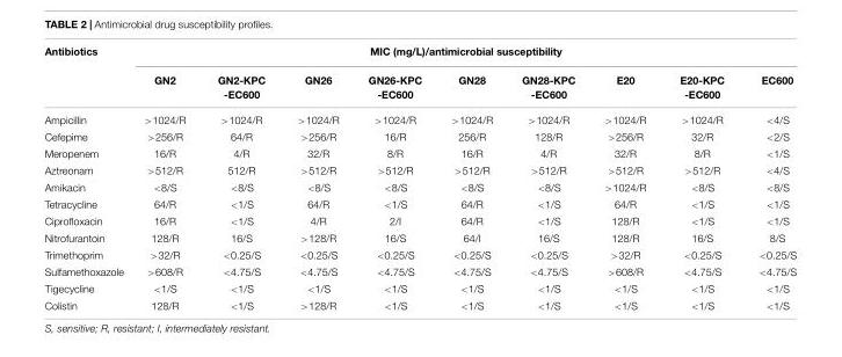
<table><thead><tr><td rowspan="2">Antibiotics</td><td colspan="9">MIC (mg/L)/antimicrobial susceptibility</td></tr><tr><td>GN2</td><td>GN2-KPC -EC600</td><td>GN26</td><td>GN26-KPC -EC600</td><td>GN28</td><td>GN28-KPC -EC600</td><td>E20</td><td>E20-KPC -EC600</td><td>EC600</td></tr></thead><tbody><tr><td>Ampicillin</td><td>&gt;1024/R</td><td>&gt;1024/R</td><td>&gt;1024/R</td><td>&gt;1024/R</td><td>&gt;1024/R</td><td>&gt;1024/R</td><td>&gt;1024/R</td><td>&gt;1024/R</td><td>&lt;4/S</td></tr><tr><td>Cefepime</td><td>&gt;256/R</td><td>64/R</td><td>&gt;256/R</td><td>16/R</td><td>256/R</td><td>128/R</td><td>&gt;256/R</td><td>32/R</td><td>&lt;2/S</td></tr><tr><td>Meropenem</td><td>16/R</td><td>4/R</td><td>32/R</td><td>8/R</td><td>16/R</td><td>4/R</td><td>32/R</td><td>8/R</td><td>&lt;1/S</td></tr><tr><td>Aztreonam</td><td>&gt;512/R</td><td>512/R</td><td>&gt;512/R</td><td>&gt;512/R</td><td>&gt;512/R</td><td>&gt;512/R</td><td>&gt;512/R</td><td>&gt;512/R</td><td>&lt;4/S</td></tr><tr><td>Amikacin</td><td>&lt;8/S</td><td>&lt;8/S</td><td>&lt;8/S</td><td>&lt;8/S</td><td>&lt;8/S</td><td>&lt;8/S</td><td>&gt;1024/R</td><td>&lt;8/S</td><td>&lt;8/S</td></tr><tr><td>Tetracycline</td><td>64/R</td><td>&lt;1/S</td><td>64/R</td><td>&lt;1/S</td><td>64/R</td><td>&lt;1/S</td><td>64/R</td><td>&lt;1/S</td><td>&lt;1/S</td></tr><tr><td>Ciprofloxacin</td><td>16/R</td><td>&lt;1/S</td><td>4/R</td><td>2/I</td><td>64/R</td><td>&lt;1/S</td><td>128/R</td><td>&lt;1/S</td><td>&lt;1/S</td></tr><tr><td>Nitrofurantoin</td><td>128/R</td><td>16/S</td><td>&gt;128/R</td><td>16/S</td><td>64/I</td><td>16/S</td><td>128/R</td><td>16/S</td><td>8/S</td></tr><tr><td>Trimethoprim</td><td>&gt;32/R</td><td>&lt;0.25/S</td><td>&lt;0.25/S</td><td>&lt;0.25/S</td><td>&lt;0.25/S</td><td>&lt;0.25/S</td><td>&gt;32/R</td><td>&lt;0.25/S</td><td>&lt;0.25/S</td></tr><tr><td>Sulfamethoxazole</td><td>&gt;608/R</td><td>&lt;4.75/S</td><td>&lt;4.75/S</td><td>&lt;4.75/S</td><td>&lt;4.75/S</td><td>&lt;4.75/S</td><td>&gt;608/R</td><td>&lt;4.75/S</td><td>&lt;4.75/S</td></tr><tr><td>Tigecycline</td><td>&lt;1/S</td><td>&lt;1/S</td><td>&lt;1/S</td><td>&lt;1/S</td><td>&lt;1/S</td><td>&lt;1/S</td><td>&lt;1/S</td><td>&lt;1/S</td><td>&lt;1/S</td></tr><tr><td>Colistin</td><td>128/R</td><td>&lt;1/S</td><td>&gt;128/R</td><td>&lt;1/S</td><td>&lt;1/S</td><td>&lt;1/S</td><td>&lt;1/S</td><td>&lt;1/S</td><td>&lt;1/S</td></tr></tbody></table>